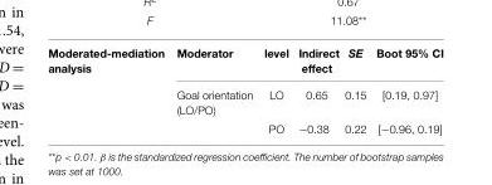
<table><thead><tr><td>Moderated-mediation analysis</td><td>Moderator</td><td>level</td><td>Indirect effect</td><td>SE</td><td>Boot 95% CI</td></tr></thead><tbody><tr><td></td><td>Goal orientation (LO/PO)</td><td>LO</td><td>0.65</td><td>0.15</td><td>[0.19, 0.97]</td></tr><tr><td></td><td></td><td>PO</td><td>−0.38</td><td>0.22</td><td>[−0.96, 0.19]</td></tr></tbody></table>